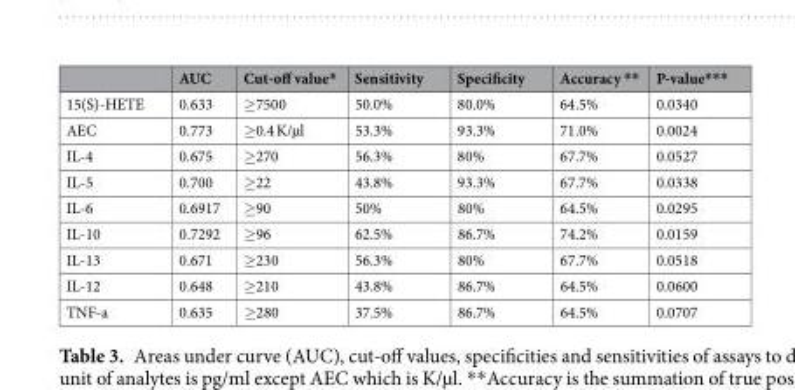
<table><thead><tr><td></td><td>AUC</td><td>Cut-off value*</td><td>Sensitivity</td><td>Specificity</td><td>Accuracy **</td><td>P-value***</td></tr></thead><tbody><tr><td>15(S)-HETE</td><td>0.633</td><td>≥7500</td><td>50.0%</td><td>80.0%</td><td>64.5%</td><td>0.0340</td></tr><tr><td>AEC</td><td>0.773</td><td>≥0.4 K/µl</td><td>53.3%</td><td>93.3%</td><td>71.0%</td><td>0.0024</td></tr><tr><td>IL-4</td><td>0.675</td><td>≥270</td><td>56.3%</td><td>80%</td><td>67.7%</td><td>0.0527</td></tr><tr><td>IL-5</td><td>0.700</td><td>≥22</td><td>43.8%</td><td>93.3%</td><td>67.7%</td><td>0.0338</td></tr><tr><td>IL-6</td><td>0.6917</td><td>≥90</td><td>50%</td><td>80%</td><td>64.5%</td><td>0.0295</td></tr><tr><td>IL-10</td><td>0.7292</td><td>≥96</td><td>62.5%</td><td>86.7%</td><td>74.2%</td><td>0.0159</td></tr><tr><td>IL-13</td><td>0.671</td><td>≥230</td><td>56.3%</td><td>80%</td><td>67.7%</td><td>0.0518</td></tr><tr><td>IL-12</td><td>0.648</td><td>≥210</td><td>43.8%</td><td>86.7%</td><td>64.5%</td><td>0.0600</td></tr><tr><td>TNF-a</td><td>0.635</td><td>≥280</td><td>37.5%</td><td>86.7%</td><td>64.5%</td><td>0.0707</td></tr></tbody></table>